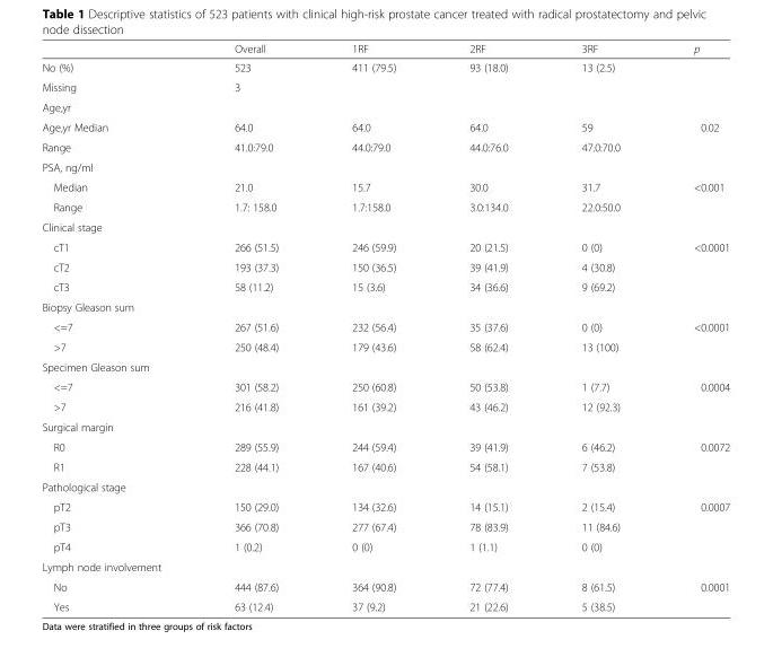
<table><thead><tr><td></td><td>Overall</td><td>1RF</td><td>2RF</td><td>3RF</td><td>p</td></tr></thead><tbody><tr><td>No (%)</td><td>523</td><td>411 (79.5)</td><td>93 (18.0)</td><td>13 (2.5)</td><td></td></tr><tr><td>Missing</td><td>3</td><td></td><td></td><td></td><td></td></tr><tr><td colspan="6">Age,yr</td></tr><tr><td>Age,yr Median</td><td>64.0</td><td>64.0</td><td>64.0</td><td>59</td><td>0.02</td></tr><tr><td>Range</td><td>41.0:79.0</td><td>44.0:79.0</td><td>44.0:76.0</td><td>47.0:70.0</td><td></td></tr><tr><td colspan="6">PSA, ng/ml</td></tr><tr><td>Median</td><td>21.0</td><td>15.7</td><td>30.0</td><td>31.7</td><td>&lt;0.001</td></tr><tr><td>Range</td><td>1.7: 158.0</td><td>1.7:158.0</td><td>3.0:134.0</td><td>22.0:50.0</td><td></td></tr><tr><td colspan="6">Clinical stage</td></tr><tr><td>cT1</td><td>266 (51.5)</td><td>246 (59.9)</td><td>20 (21.5)</td><td>0 (0)</td><td>&lt;0.0001</td></tr><tr><td>cT2</td><td>193 (37.3)</td><td>150 (36.5)</td><td>39 (41.9)</td><td>4 (30.8)</td><td></td></tr><tr><td>cT3</td><td>58 (11.2)</td><td>15 (3.6)</td><td>34 (36.6)</td><td>9 (69.2)</td><td></td></tr><tr><td colspan="6">Biopsy Gleason sum</td></tr><tr><td>&lt;=7</td><td>267 (51.6)</td><td>232 (56.4)</td><td>35 (37.6)</td><td>0 (0)</td><td>&lt;0.0001</td></tr><tr><td>&gt;7</td><td>250 (48.4)</td><td>179 (43.6)</td><td>58 (62.4)</td><td>13 (100)</td><td></td></tr><tr><td colspan="6">Specimen Gleason sum</td></tr><tr><td>&lt;=7</td><td>301 (58.2)</td><td>250 (60.8)</td><td>50 (53.8)</td><td>1 (7.7)</td><td>0.0004</td></tr><tr><td>&gt;7</td><td>216 (41.8)</td><td>161 (39.2)</td><td>43 (46.2)</td><td>12 (92.3)</td><td></td></tr><tr><td colspan="6">Surgical margin</td></tr><tr><td>R0</td><td>289 (55.9)</td><td>244 (59.4)</td><td>39 (41.9)</td><td>6 (46.2)</td><td>0.0072</td></tr><tr><td>R1</td><td>228 (44.1)</td><td>167 (40.6)</td><td>54 (58.1)</td><td>7 (53.8)</td><td></td></tr><tr><td colspan="6">Pathological stage</td></tr><tr><td>pT2</td><td>150 (29.0)</td><td>134 (32.6)</td><td>14 (15.1)</td><td>2 (15.4)</td><td>0.0007</td></tr><tr><td>pT3</td><td>366 (70.8)</td><td>277 (67.4)</td><td>78 (83.9)</td><td>11 (84.6)</td><td></td></tr><tr><td>pT4</td><td>1 (0.2)</td><td>0 (0)</td><td>1 (1.1)</td><td>0 (0)</td><td></td></tr><tr><td colspan="6">Lymph node involvement</td></tr><tr><td>No</td><td>444 (87.6)</td><td>364 (90.8)</td><td>72 (77.4)</td><td>8 (61.5)</td><td>0.0001</td></tr><tr><td>Yes</td><td>63 (12.4)</td><td>37 (9.2)</td><td>21 (22.6)</td><td>5 (38.5)</td><td></td></tr></tbody></table>